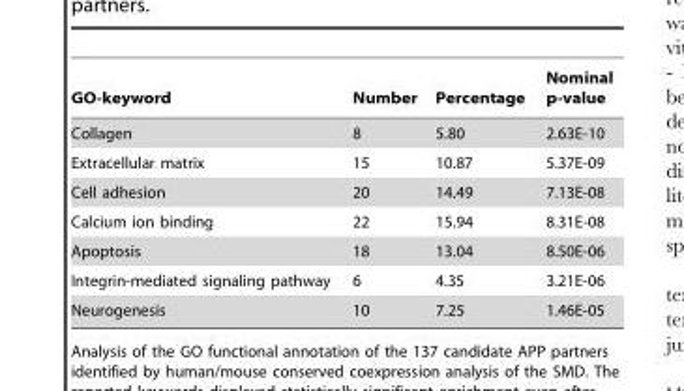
<table><thead><tr><td>GO-keyword</td><td>Number</td><td>Percentage</td><td>Nominal p-value</td></tr></thead><tbody><tr><td>Collagen</td><td>8</td><td>5.80</td><td>2.63E-10</td></tr><tr><td>Extracellular matrix</td><td>15</td><td>10.87</td><td>5.37E-09</td></tr><tr><td>Cell adhesion</td><td>20</td><td>14.49</td><td>7.13E-08</td></tr><tr><td>Calcium ion binding</td><td>22</td><td>15.94</td><td>8.31E-08</td></tr><tr><td>Apoptosis</td><td>18</td><td>13.04</td><td>8.50E-06</td></tr><tr><td>Integrin-mediated signaling pathway</td><td>6</td><td>4.35</td><td>3.21E-06</td></tr><tr><td>Neurogenesis</td><td>10</td><td>7.25</td><td>1.46E-05</td></tr></tbody></table>